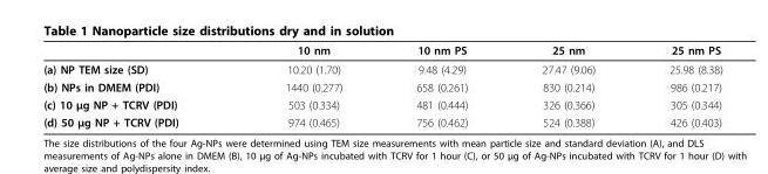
<table><thead><tr><td></td><td>10 nm</td><td>10 nm PS</td><td>25 nm</td><td>25 nm PS</td></tr></thead><tbody><tr><td>(a) NP TEM size (SD)</td><td>10.20 (1.70)</td><td>9.48 (4.29)</td><td>27.47 (9.06)</td><td>25.98 (8.38)</td></tr><tr><td>(b) NPs in DMEM (PDI)</td><td>1440 (0.277)</td><td>658 (0.261)</td><td>830 (0.214)</td><td>986 (0.217)</td></tr><tr><td>(c) 10 μg NP + TCRV (PDI)</td><td>503 (0.334)</td><td>481 (0.444)</td><td>326 (0.366)</td><td>305 (0.344)</td></tr><tr><td>(d) 50 μg NP + TCRV (PDI)</td><td>974 (0.465)</td><td>756 (0.462)</td><td>524 (0.388)</td><td>426 (0.403)</td></tr></tbody></table>